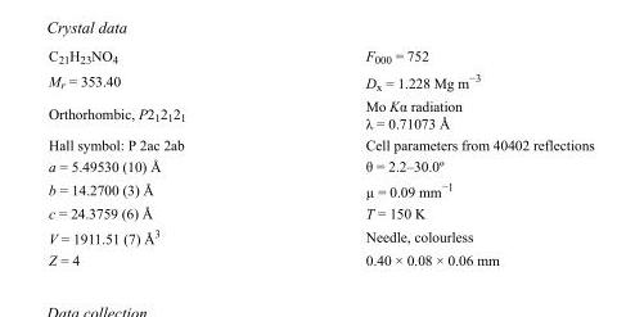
<table><tbody><tr><td>C<sub>21</sub>H<sub>23</sub>NO<sub>4</sub></td><td>F<sub>000</sub> = 752</td></tr><tr><td>M<sub>r</sub> = 353.40</td><td>D<sub>x</sub> = 1.228 Mg m<sup>−3</sup></td></tr><tr><td>Orthorhombic, P2<sub>1</sub>2<sub>1</sub>2<sub>1</sub></td><td>Mo Kα radiation λ = 0.71073 Å</td></tr><tr><td>Hall symbol: P 2ac 2ab</td><td>Cell parameters from 40402 reflections</td></tr><tr><td>a = 5.49530 (10) Å</td><td>θ = 2.2–30.0º</td></tr><tr><td>b = 14.2700 (3) Å</td><td>µ = 0.09 mm<sup>−1</sup></td></tr><tr><td>c = 24.3759 (6) Å</td><td>T = 150 K</td></tr><tr><td>V = 1911.51 (7) Å<sup>3</sup></td><td>Needle, colourless</td></tr><tr><td>Z = 4</td><td>0.40 × 0.08 × 0.06 mm</td></tr></tbody></table>